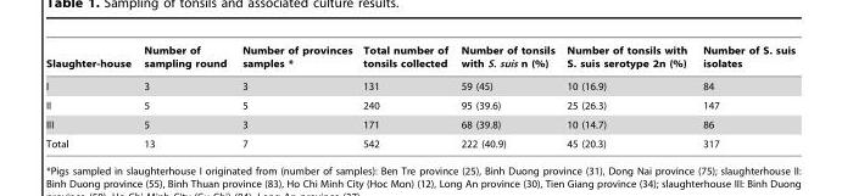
<table><thead><tr><td>Slaughter-house</td><td>Number of sampling round</td><td>Number of provinces samples *</td><td>Total number of tonsils collected</td><td>Number of tonsils with S. suis n (%)</td><td>Number of tonsils with S. suis serotype 2n (%)</td><td>Number of S. suis isolates</td></tr></thead><tbody><tr><td>I</td><td>3</td><td>3</td><td>131</td><td>59 (45)</td><td>10 (16.9)</td><td>84</td></tr><tr><td>II</td><td>5</td><td>5</td><td>240</td><td>95 (39.6)</td><td>25 (26.3)</td><td>147</td></tr><tr><td>III</td><td>5</td><td>3</td><td>171</td><td>68 (39.8)</td><td>10 (14.7)</td><td>86</td></tr><tr><td>Total</td><td>13</td><td>7</td><td>542</td><td>222 (40.9)</td><td>45 (20.3)</td><td>317</td></tr></tbody></table>